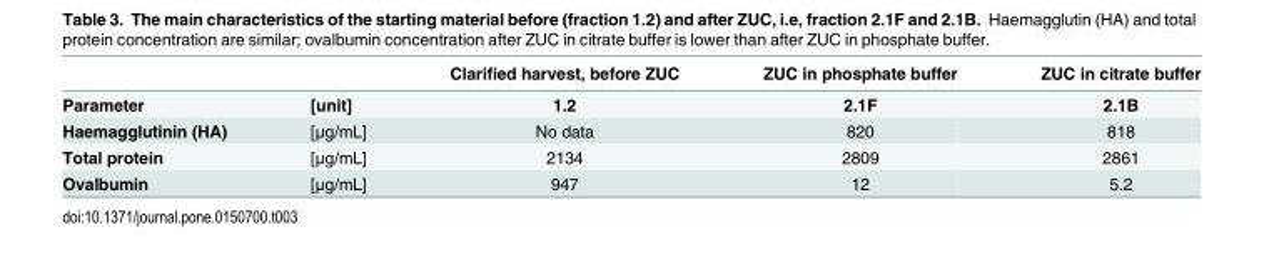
<table><thead><tr><td></td><td></td><td>Clarified harvest, before ZUC</td><td>ZUC in phosphate buffer</td><td>ZUC in citrate buffer</td></tr></thead><tbody><tr><td>Parameter</td><td>[unit]</td><td>1.2</td><td>2.1F</td><td>2.1B</td></tr><tr><td>Haemagglutinin (HA)</td><td>[μg/mL]</td><td>No data</td><td>820</td><td>818</td></tr><tr><td>Total protein</td><td>[μg/mL]</td><td>2134</td><td>2809</td><td>2861</td></tr><tr><td>Ovalbumin</td><td>[μg/mL]</td><td>947</td><td>12</td><td>5.2</td></tr></tbody></table>